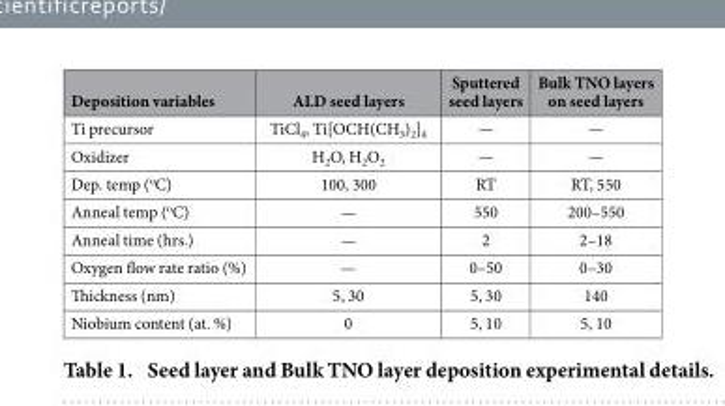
<table><thead><tr><td>Deposition variables</td><td>ALD seed layers</td><td>Sputtered seed layers</td><td>Bulk TNO layers on seed layers</td></tr></thead><tbody><tr><td>Ti precursor</td><td>TiCl<sub>4</sub>, Ti[OCH(CH<sub>3</sub>)<sub>2</sub>]<sub>4</sub></td><td>—</td><td>—</td></tr><tr><td>Oxidizer</td><td>H<sub>2</sub>O, H<sub>2</sub>O<sub>2</sub></td><td>—</td><td>—</td></tr><tr><td>Dep. temp (<sup>o</sup>C)</td><td>100, 300</td><td>RT</td><td>RT, 550</td></tr><tr><td>Anneal temp (<sup>o</sup>C)</td><td>—</td><td>550</td><td>200–550</td></tr><tr><td>Anneal time (hrs.)</td><td>—</td><td>2</td><td>2–18</td></tr><tr><td>Oxygen flow rate ratio (%)</td><td>—</td><td>0–50</td><td>0–30</td></tr><tr><td>Thickness (nm)</td><td>5, 30</td><td>5, 30</td><td>140</td></tr><tr><td>Niobium content (at. %)</td><td>0</td><td>5, 10</td><td>5, 10</td></tr></tbody></table>